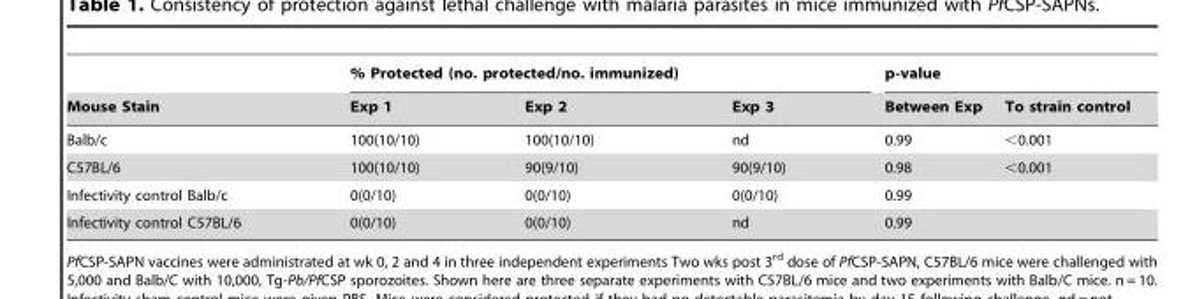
<table><thead><tr><td rowspan="2">Mouse Stain</td><td colspan="3">% Protected (no. protected/no. immunized)</td><td colspan="2">p-value</td></tr><tr><td>Exp 1</td><td>Exp 2</td><td>Exp 3</td><td>Between Exp</td><td>To strain control</td></tr></thead><tbody><tr><td>Balb/c</td><td>100(10/10)</td><td>100(10/10)</td><td>nd</td><td>0.99</td><td>&lt;0.001</td></tr><tr><td>C57BL/6</td><td>100(10/10)</td><td>90(9/10)</td><td>90(9/10)</td><td>0.98</td><td>&lt;0.001</td></tr><tr><td>Infectivity control Balb/c</td><td>0(0/10)</td><td>0(0/10)</td><td>0(0/10)</td><td>0.99</td><td></td></tr><tr><td>Infectivity control C57BL/6</td><td>0(0/10)</td><td>0(0/10)</td><td>nd</td><td>0.99</td><td></td></tr></tbody></table>